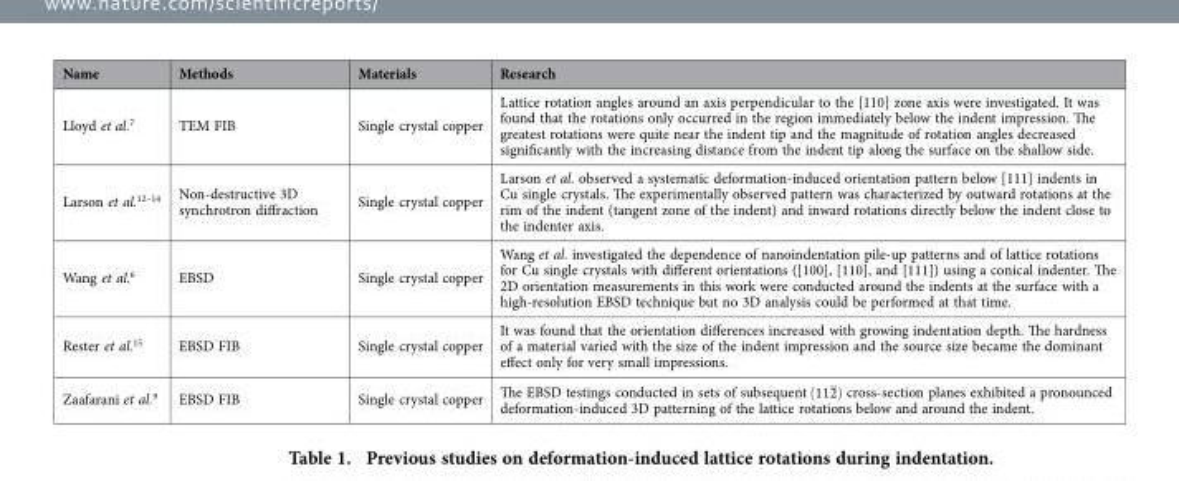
<table><thead><tr><td>Name</td><td>Methods</td><td>Materials</td><td>Research</td></tr></thead><tbody><tr><td>Lloyd et al.<sup>7</sup></td><td>TEM FIB</td><td>Single crystal copper</td><td>Lattice rotation angles around an axis perpendicular to the [110] zone axis were investigated. It was found that the rotations only occurred in the region immediately below the indent impression. The greatest rotations were quite near the indent tip and the magnitude of rotation angles decreased significantly with the increasing distance from the indent tip along the surface on the shallow side.</td></tr><tr><td>Larson et al.12–14</td><td>Non-destructive 3D synchrotron diffraction</td><td>Single crystal copper</td><td>Larson et al. observed a systematic deformation-induced orientation pattern below [111] indents in Cu single crystals. The experimentally observed pattern was characterized by outward rotations at the rim of the indent (tangent zone of the indent) and inward rotations directly below the indent close to the indenter axis.</td></tr><tr><td>Wang et al.<sup>6</sup></td><td>EBSD</td><td>Single crystal copper</td><td>Wang et al. investigated the dependence of nanoindentation pile-up patterns and of lattice rotations for Cu single crystals with different orientations ([100], [110], and [111]) using a conical indenter. The 2D orientation measurements in this work were conducted around the indents at the surface with a high-resolution EBSD technique but no 3D analysis could be performed at that time.</td></tr><tr><td>Rester et al.<sup>15</sup></td><td>EBSD FIB</td><td>Single crystal copper</td><td>It was found that the orientation differences increased with growing indentation depth. The hardness of a material varied with the size of the indent impression and the source size became the dominant effect only for very small impressions.</td></tr><tr><td>Zaafarani et al.<sup>9</sup></td><td>EBSD FIB</td><td>Single crystal copper</td><td>The EBSD testings conducted in sets of subsequent ( ) 112 cross-section planes exhibited a pronounced deformation-induced 3D patterning of the lattice rotations below and around the indent.</td></tr></tbody></table>